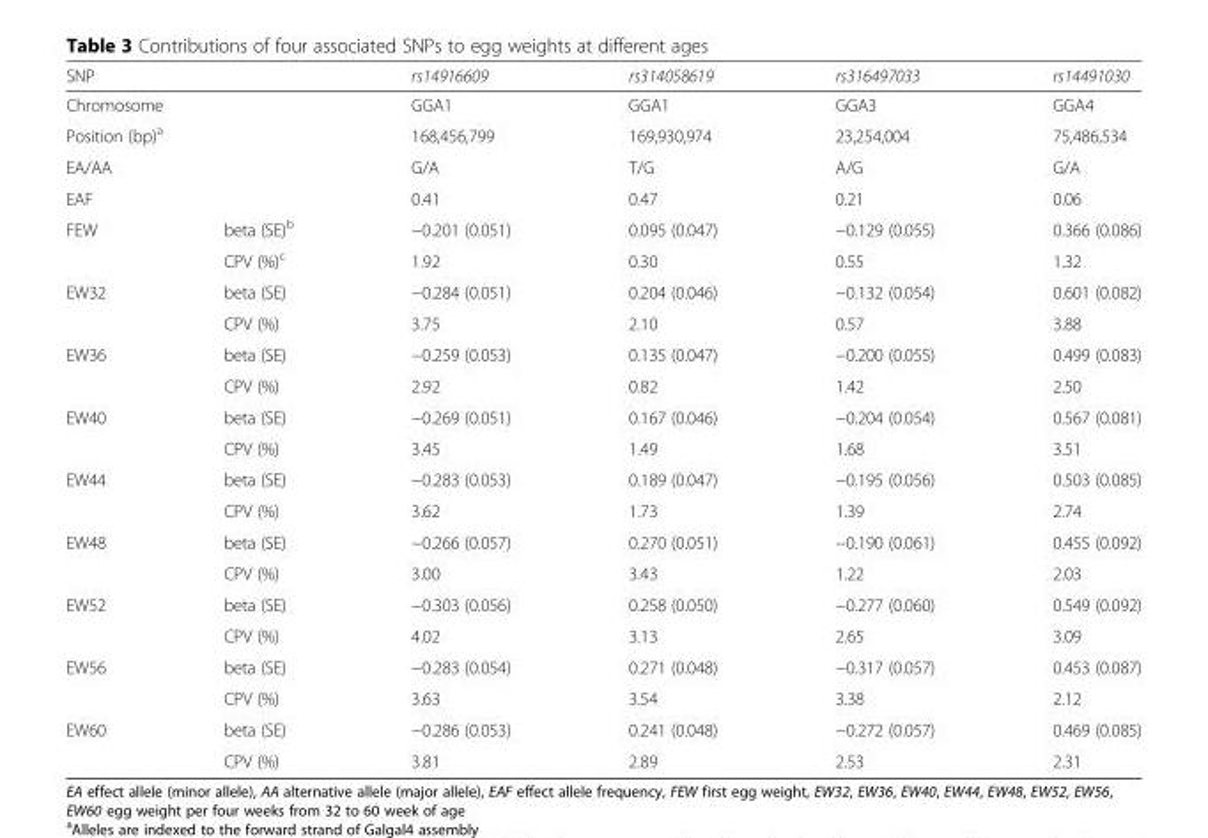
<table><thead><tr><td colspan="2">SNP</td><td>rs14916609</td><td>rs314058619</td><td>rs316497033</td><td>rs14491030</td></tr></thead><tbody><tr><td colspan="2">Chromosome</td><td>GGA1</td><td>GGA1</td><td>GGA3</td><td>GGA4</td></tr><tr><td colspan="2">Position (bp)<sup>a</sup></td><td>168,456,799</td><td>169,930,974</td><td>23,254,004</td><td>75,486,534</td></tr><tr><td colspan="2">EA/AA</td><td>G/A</td><td>T/G</td><td>A/G</td><td>G/A</td></tr><tr><td colspan="2">EAF</td><td>0.41</td><td>0.47</td><td>0.21</td><td>0.06</td></tr><tr><td rowspan="2">FEW</td><td>beta (SE)<sup>b</sup></td><td>−0.201 (0.051)</td><td>0.095 (0.047)</td><td>−0.129 (0.055)</td><td>0.366 (0.086)</td></tr><tr><td>CPV (%)<sup>c</sup></td><td>1.92</td><td>0.30</td><td>0.55</td><td>1.32</td></tr><tr><td rowspan="2">EW32</td><td>beta (SE)</td><td>−0.284 (0.051)</td><td>0.204 (0.046)</td><td>−0.132 (0.054)</td><td>0.601 (0.082)</td></tr><tr><td>CPV (%)</td><td>3.75</td><td>2.10</td><td>0.57</td><td>3.88</td></tr><tr><td rowspan="2">EW36</td><td>beta (SE)</td><td>−0.259 (0.053)</td><td>0.135 (0.047)</td><td>−0.200 (0.055)</td><td>0.499 (0.083)</td></tr><tr><td>CPV (%)</td><td>2.92</td><td>0.82</td><td>1.42</td><td>2.50</td></tr><tr><td rowspan="2">EW40</td><td>beta (SE)</td><td>−0.269 (0.051)</td><td>0.167 (0.046)</td><td>−0.204 (0.054)</td><td>0.567 (0.081)</td></tr><tr><td>CPV (%)</td><td>3.45</td><td>1.49</td><td>1.68</td><td>3.51</td></tr><tr><td rowspan="2">EW44</td><td>beta (SE)</td><td>−0.283 (0.053)</td><td>0.189 (0.047)</td><td>−0.195 (0.056)</td><td>0.503 (0.085)</td></tr><tr><td>CPV (%)</td><td>3.62</td><td>1.73</td><td>1.39</td><td>2.74</td></tr><tr><td rowspan="2">EW48</td><td>beta (SE)</td><td>−0.266 (0.057)</td><td>0.270 (0.051)</td><td>−0.190 (0.061)</td><td>0.455 (0.092)</td></tr><tr><td>CPV (%)</td><td>3.00</td><td>3.43</td><td>1.22</td><td>2.03</td></tr><tr><td rowspan="2">EW52</td><td>beta (SE)</td><td>−0.303 (0.056)</td><td>0.258 (0.050)</td><td>−0.277 (0.060)</td><td>0.549 (0.092)</td></tr><tr><td>CPV (%)</td><td>4.02</td><td>3.13</td><td>2.65</td><td>3.09</td></tr><tr><td rowspan="2">EW56</td><td>beta (SE)</td><td>−0.283 (0.054)</td><td>0.271 (0.048)</td><td>−0.317 (0.057)</td><td>0.453 (0.087)</td></tr><tr><td>CPV (%)</td><td>3.63</td><td>3.54</td><td>3.38</td><td>2.12</td></tr><tr><td rowspan="2">EW60</td><td>beta (SE)</td><td>−0.286 (0.053)</td><td>0.241 (0.048)</td><td>−0.272 (0.057)</td><td>0.469 (0.085)</td></tr><tr><td>CPV (%)</td><td>3.81</td><td>2.89</td><td>2.53</td><td>2.31</td></tr></tbody></table>